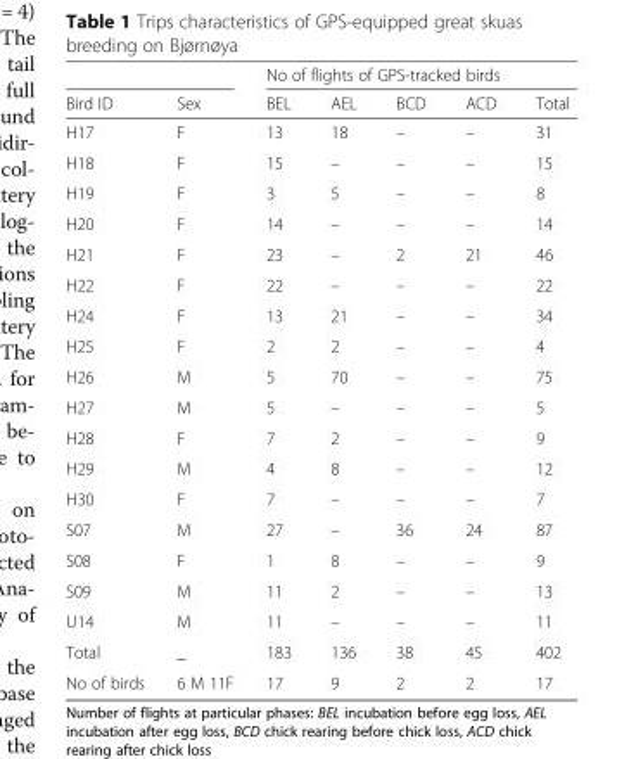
<table><thead><tr><td rowspan="2">Bird ID</td><td rowspan="2">Sex</td><td colspan="5">No of flights of GPS-tracked birds</td></tr><tr><td>BEL</td><td>AEL</td><td>BCD</td><td>ACD</td><td>Total</td></tr></thead><tbody><tr><td>H17</td><td>F</td><td>13</td><td>18</td><td>–</td><td>–</td><td>31</td></tr><tr><td>H18</td><td>F</td><td>15</td><td>–</td><td>–</td><td>–</td><td>15</td></tr><tr><td>H19</td><td>F</td><td>3</td><td>5</td><td>–</td><td>–</td><td>8</td></tr><tr><td>H20</td><td>F</td><td>14</td><td>–</td><td>–</td><td>–</td><td>14</td></tr><tr><td>H21</td><td>F</td><td>23</td><td>–</td><td>2</td><td>21</td><td>46</td></tr><tr><td>H22</td><td>F</td><td>22</td><td>–</td><td>–</td><td>–</td><td>22</td></tr><tr><td>H24</td><td>F</td><td>13</td><td>21</td><td>–</td><td>–</td><td>34</td></tr><tr><td>H25</td><td>F</td><td>2</td><td>2</td><td>–</td><td>–</td><td>4</td></tr><tr><td>H26</td><td>M</td><td>5</td><td>70</td><td>–</td><td>–</td><td>75</td></tr><tr><td>H27</td><td>M</td><td>5</td><td>–</td><td>–</td><td>–</td><td>5</td></tr><tr><td>H28</td><td>F</td><td>7</td><td>2</td><td>–</td><td>–</td><td>9</td></tr><tr><td>H29</td><td>M</td><td>4</td><td>8</td><td>–</td><td>–</td><td>12</td></tr><tr><td>H30</td><td>F</td><td>7</td><td>–</td><td>–</td><td>–</td><td>7</td></tr><tr><td>S07</td><td>M</td><td>27</td><td>–</td><td>36</td><td>24</td><td>87</td></tr><tr><td>S08</td><td>F</td><td>1</td><td>8</td><td>–</td><td>–</td><td>9</td></tr><tr><td>S09</td><td>M</td><td>11</td><td>2</td><td>–</td><td>–</td><td>13</td></tr><tr><td>U14</td><td>M</td><td>11</td><td>–</td><td>–</td><td>–</td><td>11</td></tr><tr><td>Total</td><td>_</td><td>183</td><td>136</td><td>38</td><td>45</td><td>402</td></tr><tr><td>No of birds</td><td>6 M 11F</td><td>17</td><td>9</td><td>2</td><td>2</td><td>17</td></tr></tbody></table>